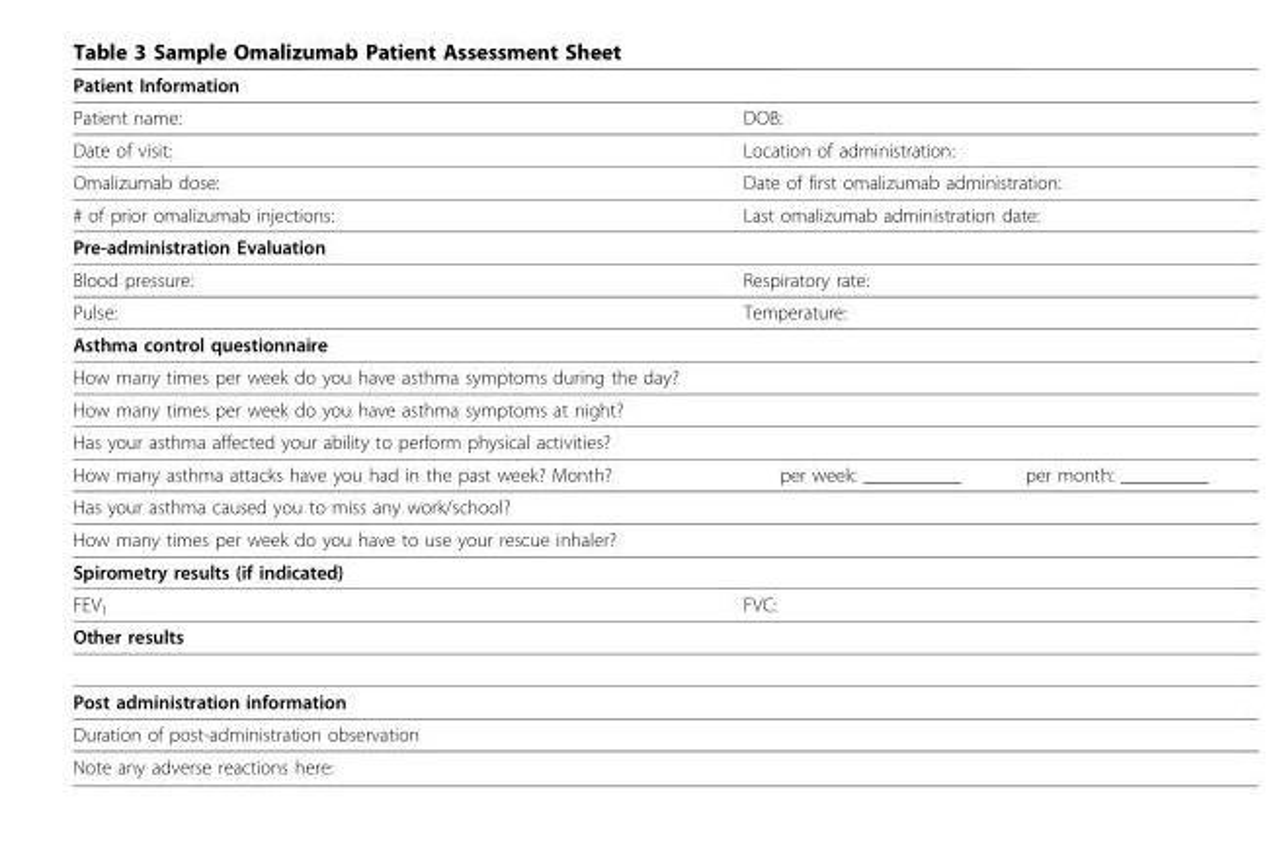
<table><thead><tr><td colspan="3">Patient Information</td></tr></thead><tbody><tr><td>Patient name:</td><td colspan="2">DOB:</td></tr><tr><td>Date of visit:</td><td colspan="2">Location of administration:</td></tr><tr><td>Omalizumab dose:</td><td colspan="2">Date of first omalizumab administration:</td></tr><tr><td># of prior omalizumab injections:</td><td colspan="2">Last omalizumab administration date:</td></tr><tr><td colspan="3">Pre-administration Evaluation</td></tr><tr><td>Blood pressure:</td><td colspan="2">Respiratory rate:</td></tr><tr><td>Pulse:</td><td colspan="2">Temperature:</td></tr><tr><td colspan="3">Asthma control questionnaire</td></tr><tr><td colspan="3">How many times per week do you have asthma symptoms during the day?</td></tr><tr><td colspan="3">How many times per week do you have asthma symptoms at night?</td></tr><tr><td colspan="3">Has your asthma affected your ability to perform physical activities?</td></tr><tr><td>How many asthma attacks have you had in the past week? Month?</td><td>per week: __________</td><td>per month: _________</td></tr><tr><td colspan="3">Has your asthma caused you to miss any work/school?</td></tr><tr><td colspan="3">How many times per week do you have to use your rescue inhaler?</td></tr><tr><td colspan="3">Spirometry results (if indicated)</td></tr><tr><td>FEV<sub>1</sub></td><td colspan="2">FVC:</td></tr><tr><td colspan="3">Other results</td></tr><tr><td colspan="3">Post administration information</td></tr><tr><td colspan="3">Duration of post-administration observation</td></tr><tr><td>Note any adverse reactions here:</td><td></td><td></td></tr></tbody></table>